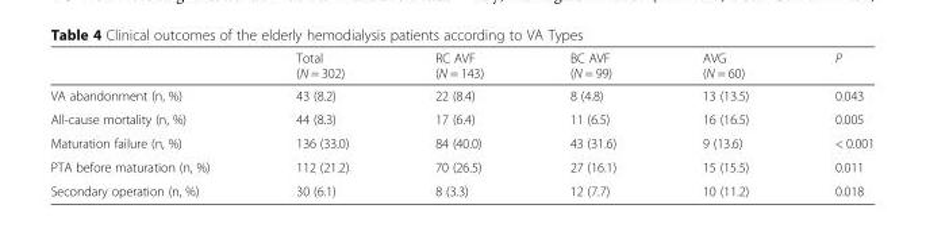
<table><thead><tr><td></td><td>Total (N = 302)</td><td>RC AVF (N = 143)</td><td>BC AVF (N = 99)</td><td>AVG (N = 60)</td><td>P</td></tr></thead><tbody><tr><td>VA abandonment (n, %)</td><td>43 (8.2)</td><td>22 (8.4)</td><td>8 (4.8)</td><td>13 (13.5)</td><td>0.043</td></tr><tr><td>All-cause mortality (n, %)</td><td>44 (8.3)</td><td>17 (6.4)</td><td>11 (6.5)</td><td>16 (16.5)</td><td>0.005</td></tr><tr><td>Maturation failure (n, %)</td><td>136 (33.0)</td><td>84 (40.0)</td><td>43 (31.6)</td><td>9 (13.6)</td><td>&lt; 0.001</td></tr><tr><td>PTA before maturation (n, %)</td><td>112 (21.2)</td><td>70 (26.5)</td><td>27 (16.1)</td><td>15 (15.5)</td><td>0.011</td></tr><tr><td>Secondary operation (n, %)</td><td>30 (6.1)</td><td>8 (3.3)</td><td>12 (7.7)</td><td>10 (11.2)</td><td>0.018</td></tr></tbody></table>